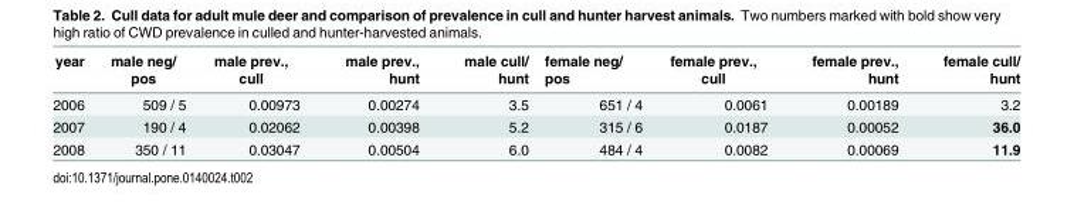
<table><thead><tr><td>year</td><td>male neg/ pos</td><td>male prev., cull</td><td>male prev., hunt</td><td>male cull/ hunt</td><td>female neg/ pos</td><td>female prev., cull</td><td>female prev., hunt</td><td>female cull/ hunt</td></tr></thead><tbody><tr><td>2006</td><td>509 / 5</td><td>0.00973</td><td>0.00274</td><td>3.5</td><td>651 / 4</td><td>0.0061</td><td>0.00189</td><td>3.2</td></tr><tr><td>2007</td><td>190 / 4</td><td>0.02062</td><td>0.00398</td><td>5.2</td><td>315 / 6</td><td>0.0187</td><td>0.00052</td><td>36.0</td></tr><tr><td>2008</td><td>350 / 11</td><td>0.03047</td><td>0.00504</td><td>6.0</td><td>484 / 4</td><td>0.0082</td><td>0.00069</td><td>11.9</td></tr></tbody></table>